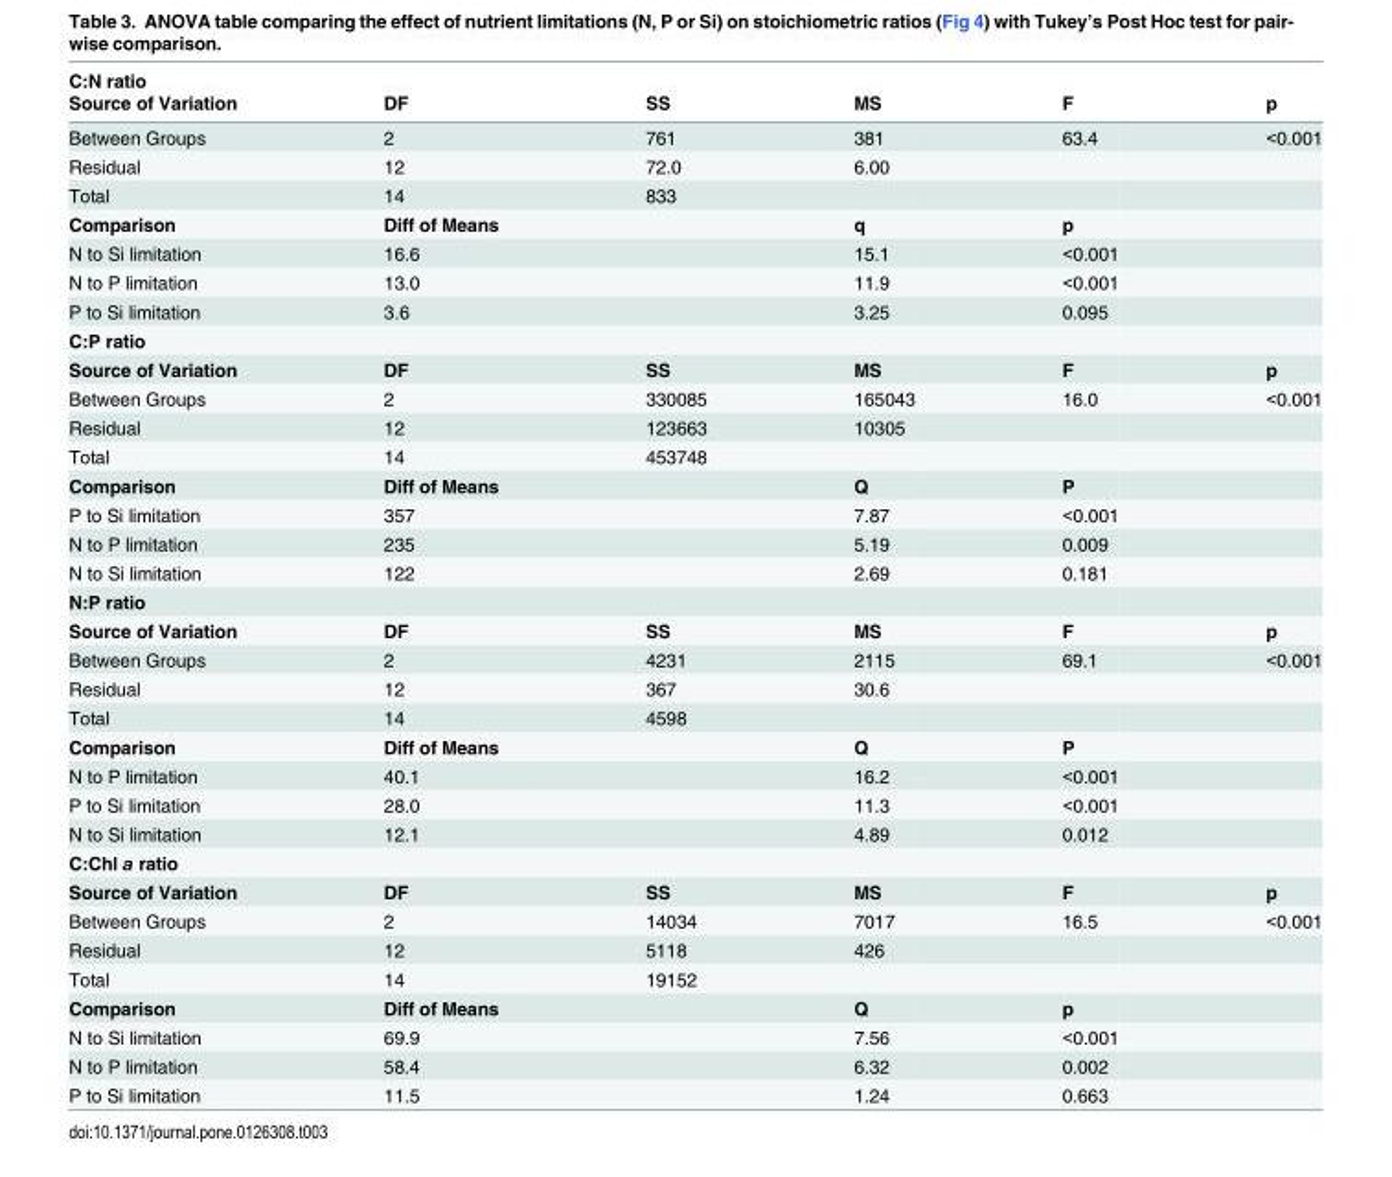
<table><thead><tr><td rowspan="2">C:N ratio Source of Variation</td><td rowspan="2">DF</td><td rowspan="2">SS</td><td rowspan="2">MS</td><td rowspan="2">F</td><td rowspan="2">p</td></tr><tr></tr></thead><tbody><tr><td>Between Groups</td><td>2</td><td>761</td><td>381</td><td>63.4</td><td>&lt;0.001</td></tr><tr><td>Residual</td><td>12</td><td>72.0</td><td>6.00</td><td></td><td></td></tr><tr><td>Total</td><td>14</td><td>833</td><td></td><td></td><td></td></tr><tr><td>Comparison</td><td>Diff of Means</td><td></td><td>q</td><td>p</td><td></td></tr><tr><td>N to Si limitation</td><td>16.6</td><td></td><td>15.1</td><td>&lt;0.001</td><td></td></tr><tr><td>N to P limitation</td><td>13.0</td><td></td><td>11.9</td><td>&lt;0.001</td><td></td></tr><tr><td>P to Si limitation</td><td>3.6</td><td></td><td>3.25</td><td>0.095</td><td></td></tr><tr><td colspan="6">C:P ratio</td></tr><tr><td>Source of Variation</td><td>DF</td><td>SS</td><td>MS</td><td>F</td><td>p</td></tr><tr><td>Between Groups</td><td>2</td><td>330085</td><td>165043</td><td>16.0</td><td>&lt;0.001</td></tr><tr><td>Residual</td><td>12</td><td>123663</td><td>10305</td><td></td><td></td></tr><tr><td>Total</td><td>14</td><td>453748</td><td></td><td></td><td></td></tr><tr><td>Comparison</td><td>Diff of Means</td><td></td><td>Q</td><td>P</td><td></td></tr><tr><td>P to Si limitation</td><td>357</td><td></td><td>7.87</td><td>&lt;0.001</td><td></td></tr><tr><td>N to P limitation</td><td>235</td><td></td><td>5.19</td><td>0.009</td><td></td></tr><tr><td>N to Si limitation</td><td>122</td><td></td><td>2.69</td><td>0.181</td><td></td></tr><tr><td colspan="6">N:P ratio</td></tr><tr><td>Source of Variation</td><td>DF</td><td>SS</td><td>MS</td><td>F</td><td>p</td></tr><tr><td>Between Groups</td><td>2</td><td>4231</td><td>2115</td><td>69.1</td><td>&lt;0.001</td></tr><tr><td>Residual</td><td>12</td><td>367</td><td>30.6</td><td></td><td></td></tr><tr><td>Total</td><td>14</td><td>4598</td><td></td><td></td><td></td></tr><tr><td>Comparison</td><td>Diff of Means</td><td></td><td>Q</td><td>P</td><td></td></tr><tr><td>N to P limitation</td><td>40.1</td><td></td><td>16.2</td><td>&lt;0.001</td><td></td></tr><tr><td>P to Si limitation</td><td>28.0</td><td></td><td>11.3</td><td>&lt;0.001</td><td></td></tr><tr><td>N to Si limitation</td><td>12.1</td><td></td><td>4.89</td><td>0.012</td><td></td></tr><tr><td colspan="6">C:Chl a ratio</td></tr><tr><td>Source of Variation</td><td>DF</td><td>SS</td><td>MS</td><td>F</td><td>p</td></tr><tr><td>Between Groups</td><td>2</td><td>14034</td><td>7017</td><td>16.5</td><td>&lt;0.001</td></tr><tr><td>Residual</td><td>12</td><td>5118</td><td>426</td><td></td><td></td></tr><tr><td>Total</td><td>14</td><td>19152</td><td></td><td></td><td></td></tr><tr><td>Comparison</td><td>Diff of Means</td><td></td><td>Q</td><td>p</td><td></td></tr><tr><td>N to Si limitation</td><td>69.9</td><td></td><td>7.56</td><td>&lt;0.001</td><td></td></tr><tr><td>N to P limitation</td><td>58.4</td><td></td><td>6.32</td><td>0.002</td><td></td></tr><tr><td>P to Si limitation</td><td>11.5</td><td></td><td>1.24</td><td>0.663</td><td></td></tr></tbody></table>